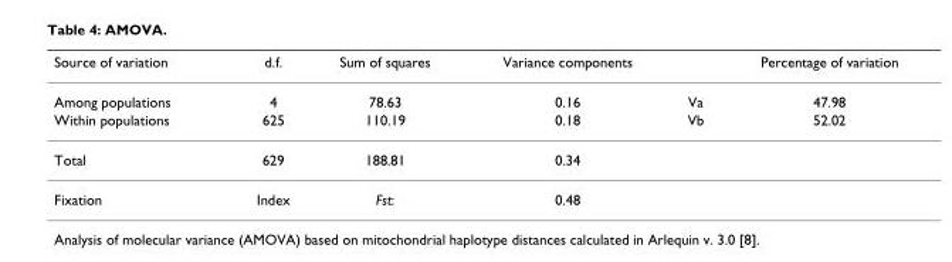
<table><thead><tr><td>Source of variation</td><td>d.f.</td><td>Sum of squares</td><td>Variance components</td><td></td><td>Percentage of variation</td></tr></thead><tbody><tr><td>Among populations</td><td>4</td><td>78.63</td><td>0.16</td><td>Va</td><td>47.98</td></tr><tr><td>Within populations</td><td>625</td><td>110.19</td><td>0.18</td><td>Vb</td><td>52.02</td></tr><tr><td>Total</td><td>629</td><td>188.81</td><td>0.34</td><td></td><td></td></tr><tr><td>Fixation</td><td>Index</td><td>Fst:</td><td>0.48</td><td></td><td></td></tr></tbody></table>